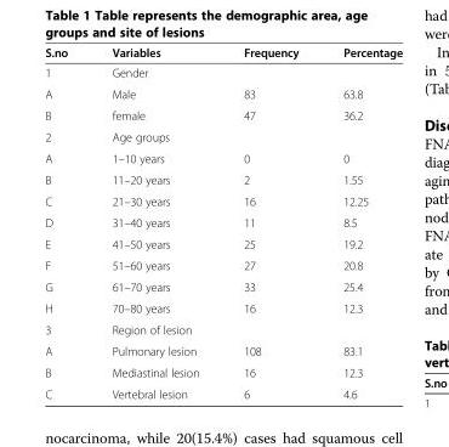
<table><thead><tr><td>S.no</td><td>Variables</td><td>Frequency</td><td>Percentage</td></tr></thead><tbody><tr><td>1</td><td>Gender</td><td></td><td></td></tr><tr><td>A</td><td>Male</td><td>83</td><td>63.8</td></tr><tr><td>B</td><td>female</td><td>47</td><td>36.2</td></tr><tr><td>2</td><td>Age groups</td><td></td><td></td></tr><tr><td>A</td><td>1–10 years</td><td>0</td><td>0</td></tr><tr><td>B</td><td>11–20 years</td><td>2</td><td>1.55</td></tr><tr><td>C</td><td>21–30 years</td><td>16</td><td>12.25</td></tr><tr><td>D</td><td>31–40 years</td><td>11</td><td>8.5</td></tr><tr><td>E</td><td>41–50 years</td><td>25</td><td>19.2</td></tr><tr><td>F</td><td>51–60 years</td><td>27</td><td>20.8</td></tr><tr><td>G</td><td>61–70 years</td><td>33</td><td>25.4</td></tr><tr><td>H</td><td>70–80 years</td><td>16</td><td>12.3</td></tr><tr><td>3</td><td>Region of lesion</td><td></td><td></td></tr><tr><td>A</td><td>Pulmonary lesion</td><td>108</td><td>83.1</td></tr><tr><td>B</td><td>Mediastinal lesion</td><td>16</td><td>12.3</td></tr><tr><td>C</td><td>Vertebral lesion</td><td>6</td><td>4.6</td></tr></tbody></table>